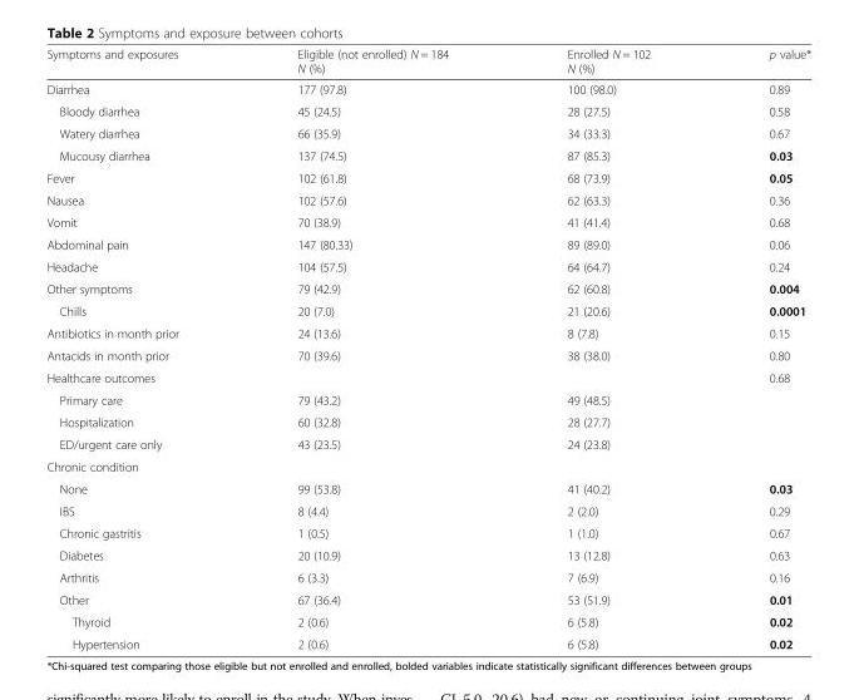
<table><thead><tr><td>Symptoms and exposures</td><td>Eligible (not enrolled) N = 184 N (%)</td><td>Enrolled N = 102 N (%)</td><td>p value*</td></tr></thead><tbody><tr><td>Diarrhea</td><td>177 (97.8)</td><td>100 (98.0)</td><td>0.89</td></tr><tr><td>Bloody diarrhea</td><td>45 (24.5)</td><td>28 (27.5)</td><td>0.58</td></tr><tr><td>Watery diarrhea</td><td>66 (35.9)</td><td>34 (33.3)</td><td>0.67</td></tr><tr><td>Mucousy diarrhea</td><td>137 (74.5)</td><td>87 (85.3)</td><td>0.03</td></tr><tr><td>Fever</td><td>102 (61.8)</td><td>68 (73.9)</td><td>0.05</td></tr><tr><td>Nausea</td><td>102 (57.6)</td><td>62 (63.3)</td><td>0.36</td></tr><tr><td>Vomit</td><td>70 (38.9)</td><td>41 (41.4)</td><td>0.68</td></tr><tr><td>Abdominal pain</td><td>147 (80.33)</td><td>89 (89.0)</td><td>0.06</td></tr><tr><td>Headache</td><td>104 (57.5)</td><td>64 (64.7)</td><td>0.24</td></tr><tr><td>Other symptoms</td><td>79 (42.9)</td><td>62 (60.8)</td><td>0.004</td></tr><tr><td>Chills</td><td>20 (7.0)</td><td>21 (20.6)</td><td>0.0001</td></tr><tr><td>Antibiotics in month prior</td><td>24 (13.6)</td><td>8 (7.8)</td><td>0.15</td></tr><tr><td>Antacids in month prior</td><td>70 (39.6)</td><td>38 (38.0)</td><td>0.80</td></tr><tr><td>Healthcare outcomes</td><td></td><td></td><td>0.68</td></tr><tr><td>Primary care</td><td>79 (43.2)</td><td>49 (48.5)</td><td></td></tr><tr><td>Hospitalization</td><td>60 (32.8)</td><td>28 (27.7)</td><td></td></tr><tr><td>ED/urgent care only</td><td>43 (23.5)</td><td>24 (23.8)</td><td></td></tr><tr><td colspan="4">Chronic condition</td></tr><tr><td>None</td><td>99 (53.8)</td><td>41 (40.2)</td><td>0.03</td></tr><tr><td>IBS</td><td>8 (4.4)</td><td>2 (2.0)</td><td>0.29</td></tr><tr><td>Chronic gastritis</td><td>1 (0.5)</td><td>1 (1.0)</td><td>0.67</td></tr><tr><td>Diabetes</td><td>20 (10.9)</td><td>13 (12.8)</td><td>0.63</td></tr><tr><td>Arthritis</td><td>6 (3.3)</td><td>7 (6.9)</td><td>0.16</td></tr><tr><td>Other</td><td>67 (36.4)</td><td>53 (51.9)</td><td>0.01</td></tr><tr><td>Thyroid</td><td>2 (0.6)</td><td>6 (5.8)</td><td>0.02</td></tr><tr><td>Hypertension</td><td>2 (0.6)</td><td>6 (5.8)</td><td>0.02</td></tr></tbody></table>